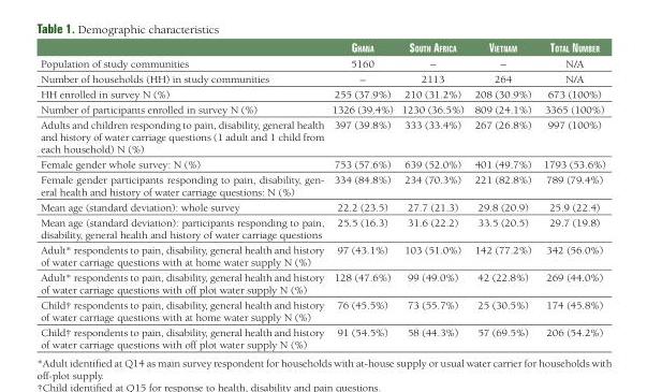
<table><thead><tr><td></td><td>Ghana</td><td>South africa</td><td>Vietnam</td><td>total number</td></tr></thead><tbody><tr><td>Population of study communities</td><td>5160</td><td>–</td><td>–</td><td>N/A</td></tr><tr><td>Number of households (HH) in study communities</td><td>–</td><td>2113</td><td>264</td><td>N/A</td></tr><tr><td>HH enrolled in survey N (%)</td><td>255 (37.9%)</td><td>210 (31.2%)</td><td>208 (30.9%)</td><td>673 (100%)</td></tr><tr><td>Number of participants enrolled in survey N (%)</td><td>1326 (39.4%)</td><td>1230 (36.5%)</td><td>809 (24.1%)</td><td>3365 (100%)</td></tr><tr><td>Adults and children responding to pain, disability, general health and history of water carriage questions (1 adult and 1 child from each household) N (%)</td><td>397 (39.8%)</td><td>333 (33.4%)</td><td>267 (26.8%)</td><td>997 (100%)</td></tr><tr><td>Female gender whole survey: N (%)</td><td>753 (57.6%)</td><td>639 (52.0%)</td><td>401 (49.7%)</td><td>1793 (53.6%)</td></tr><tr><td>Female gender participants responding to pain, disability, gen- eral health and history of water carriage questions: N (%)</td><td>334 (84.8%)</td><td>234 (70.3%)</td><td>221 (82.8%)</td><td>789 (79.4%)</td></tr><tr><td>Mean age (standard deviation): whole survey</td><td>22.2 (23.5)</td><td>27.7 (21.3)</td><td>29.8 (20.9)</td><td>25.9 (22.4)</td></tr><tr><td>Mean age (standard deviation): participants responding to pain, disability, general health and history of water carriage questions</td><td>25.5 (16.3)</td><td>31.6 (22.2)</td><td>33.5 (20.5)</td><td>29.7 (19.8)</td></tr><tr><td>Adult* respondents to pain, disability, general health and history of water carriage questions with at home water supply N (%)</td><td>97 (43.1%)</td><td>103 (51.0%)</td><td>142 (77.2%)</td><td>342 (56.0%)</td></tr><tr><td>Adult* respondents to pain, disability, general health and history of water carriage questions with off plot water supply N (%)</td><td>128 (47.6%)</td><td>99 (49.0%)</td><td>42 (22.8%)</td><td>269 (44.0%)</td></tr><tr><td>Child† respondents to pain, disability, general health and history of water carriage questions with at home water supply N (%)</td><td>76 (45.5%)</td><td>73 (55.7%)</td><td>25 (30.5%)</td><td>174 (45.8%)</td></tr><tr><td>Child† respondents to pain, disability, general health and history of water carriage questions with off plot water supply N (%)</td><td>91 (54.5%)</td><td>58 (44.3%)</td><td>57 (69.5%)</td><td>206 (54.2%)</td></tr></tbody></table>